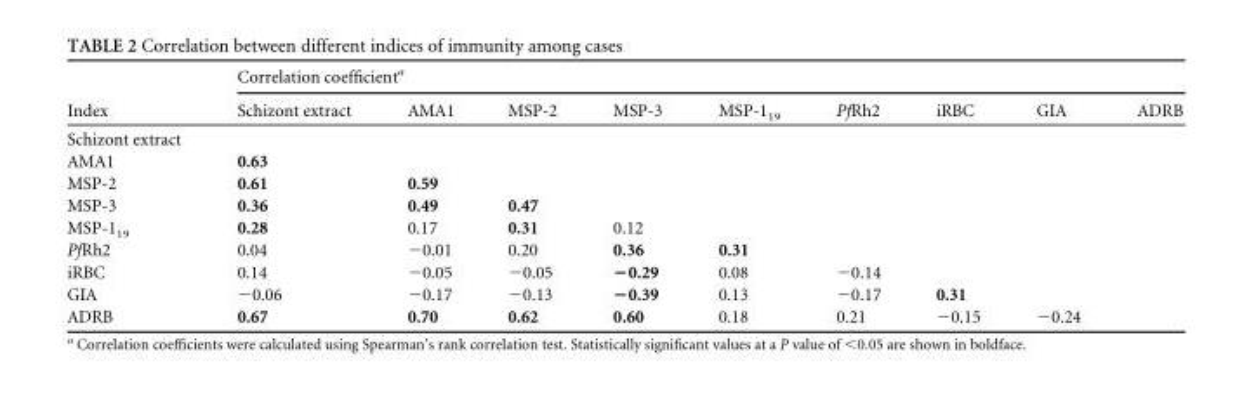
<table><thead><tr><td rowspan="2">Index</td><td colspan="9">Correlation coefficient<sup>a</sup></td></tr><tr><td>Schizont extract</td><td>AMA1</td><td>MSP-2</td><td>MSP-3</td><td>MSP-1<sub>19</sub></td><td>PfRh2</td><td>iRBC</td><td>GIA</td><td>ADRB</td></tr></thead><tbody><tr><td colspan="10">Schizont extract</td></tr><tr><td>AMA1</td><td>0.63</td><td></td><td></td><td></td><td></td><td></td><td></td><td></td><td></td></tr><tr><td>MSP-2</td><td>0.61</td><td>0.59</td><td></td><td></td><td></td><td></td><td></td><td></td><td></td></tr><tr><td>MSP-3</td><td>0.36</td><td>0.49</td><td>0.47</td><td></td><td></td><td></td><td></td><td></td><td></td></tr><tr><td>MSP-1<sub>19</sub></td><td>0.28</td><td>0.17</td><td>0.31</td><td>0.12</td><td></td><td></td><td></td><td></td><td></td></tr><tr><td>PfRh2</td><td>0.04</td><td>−0.01</td><td>0.20</td><td>0.36</td><td>0.31</td><td></td><td></td><td></td><td></td></tr><tr><td>iRBC</td><td>0.14</td><td>−0.05</td><td>−0.05</td><td>−0.29</td><td>0.08</td><td>−0.14</td><td></td><td></td><td></td></tr><tr><td>GIA</td><td>−0.06</td><td>−0.17</td><td>−0.13</td><td>−0.39</td><td>0.13</td><td>−0.17</td><td>0.31</td><td></td><td></td></tr><tr><td>ADRB</td><td>0.67</td><td>0.70</td><td>0.62</td><td>0.60</td><td>0.18</td><td>0.21</td><td>−0.15</td><td>−0.24</td><td></td></tr></tbody></table>